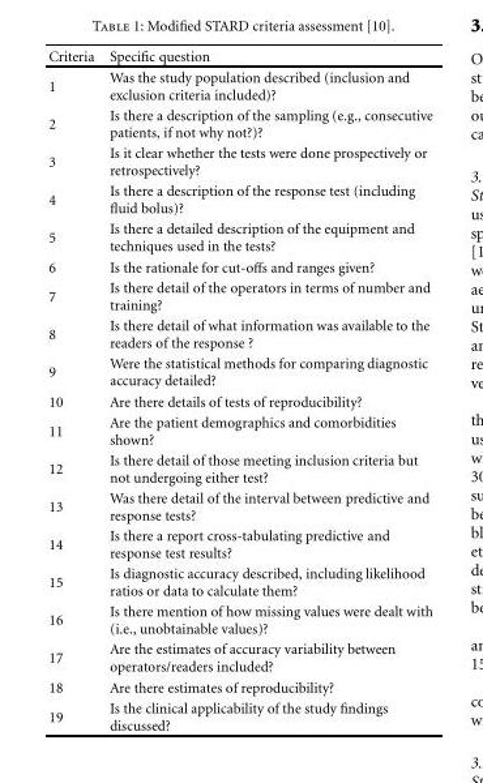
<table><thead><tr><td>Criteria</td><td>Specific question</td></tr></thead><tbody><tr><td>1</td><td>Was the study population described (inclusion and exclusion criteria included)?</td></tr><tr><td>2</td><td>Is there a description of the sampling (e.g., consecutive patients, if not why not?)?</td></tr><tr><td>3</td><td>Is it clear whether the tests were done prospectively or retrospectively?</td></tr><tr><td>4</td><td>Is there a description of the response test (including fluid bolus)?</td></tr><tr><td>5</td><td>Is there a detailed description of the equipment and techniques used in the tests?</td></tr><tr><td>6</td><td>Is the rationale for cut-offs and ranges given?</td></tr><tr><td>7</td><td>Is there detail of the operators in terms of number and training?</td></tr><tr><td>8</td><td>Is there detail of what information was available to the readers of the response ?</td></tr><tr><td>9</td><td>Were the statistical methods for comparing diagnostic accuracy detailed?</td></tr><tr><td>10</td><td>Are there details of tests of reproducibility?</td></tr><tr><td>11</td><td>Are the patient demographics and comorbidities shown?</td></tr><tr><td>12</td><td>Is there detail of those meeting inclusion criteria but not undergoing either test?</td></tr><tr><td>13</td><td>Was there detail of the interval between predictive and response tests?</td></tr><tr><td>14</td><td>Is there a report cross-tabulating predictive and response test results?</td></tr><tr><td>15</td><td>Is diagnostic accuracy described, including likelihood ratios or data to calculate them?</td></tr><tr><td>16</td><td>Is there mention of how missing values were dealt with (i.e., unobtainable values)?</td></tr><tr><td>17</td><td>Are the estimates of accuracy variability between operators/readers included?</td></tr><tr><td>18</td><td>Are there estimates of reproducibility?</td></tr><tr><td>19</td><td>Is the clinical applicability of the study findings discussed?</td></tr></tbody></table>